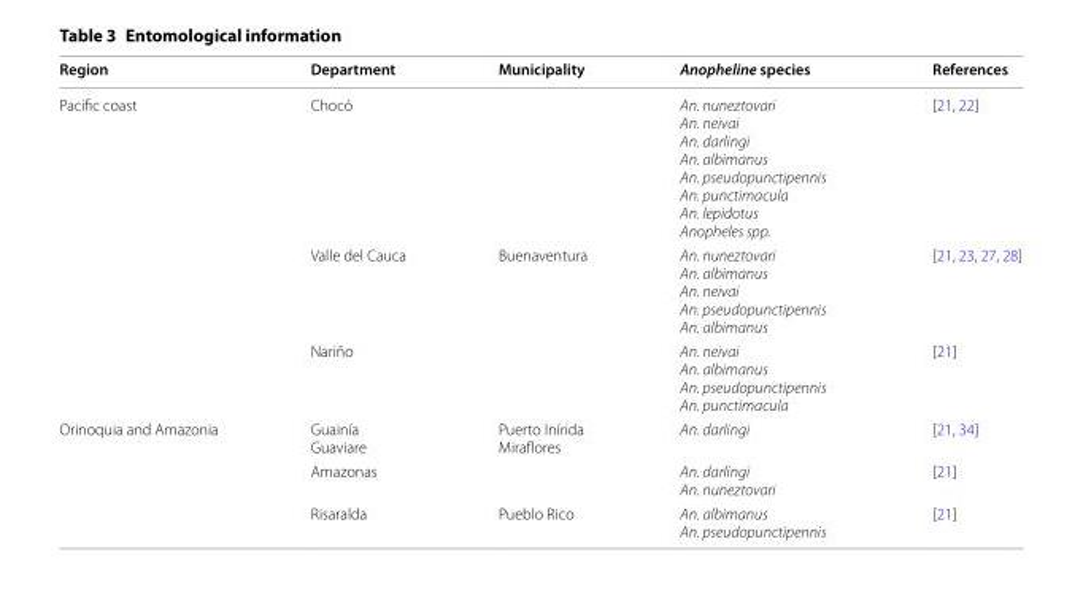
<table><thead><tr><td>Region</td><td>Department</td><td>Municipality</td><td>Anopheline species</td><td>References</td></tr></thead><tbody><tr><td rowspan="3">Pacific coast</td><td>Chocó</td><td></td><td>An. nuneztovari An. neivai An. darlingi An. albimanus An. pseudopunctipennis An. punctimacula An. lepidotus Anopheles spp.</td><td>[21, 22]</td></tr><tr><td>Valle del Cauca</td><td>Buenaventura</td><td>An. nuneztovari An. albimanus An. neivai An. pseudopunctipennis An. albimanus</td><td>[21, 23, 27, 28]</td></tr><tr><td>Nariño</td><td></td><td>An. neivai An. albimanus An. pseudopunctipennis An. punctimacula</td><td>[21]</td></tr><tr><td rowspan="3">Orinoquia and Amazonia</td><td>Guainía Guaviare</td><td>Puerto Inírida Miraflores</td><td>An. darlingi</td><td>[21, 34]</td></tr><tr><td>Amazonas</td><td></td><td>An. darlingi An. nuneztovari</td><td>[21]</td></tr><tr><td>Risaralda</td><td>Pueblo Rico</td><td>An. albimanus An. pseudopunctipennis</td><td>[21]</td></tr></tbody></table>